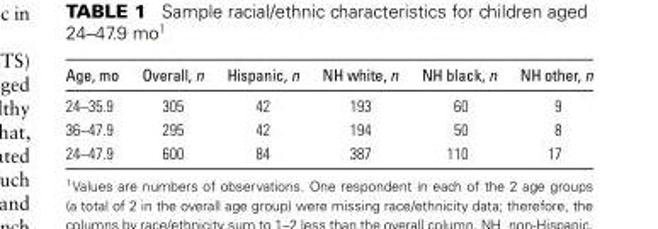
<table><thead><tr><td>Age, mo</td><td>Overall, n</td><td>Hispanic, n</td><td>NH white, n</td><td>NH black, n</td><td>NH other, n</td></tr></thead><tbody><tr><td>24–35.9</td><td>305</td><td>42</td><td>193</td><td>60</td><td>9</td></tr><tr><td>36–47.9</td><td>295</td><td>42</td><td>194</td><td>50</td><td>8</td></tr><tr><td>24–47.9</td><td>600</td><td>84</td><td>387</td><td>110</td><td>17</td></tr></tbody></table>